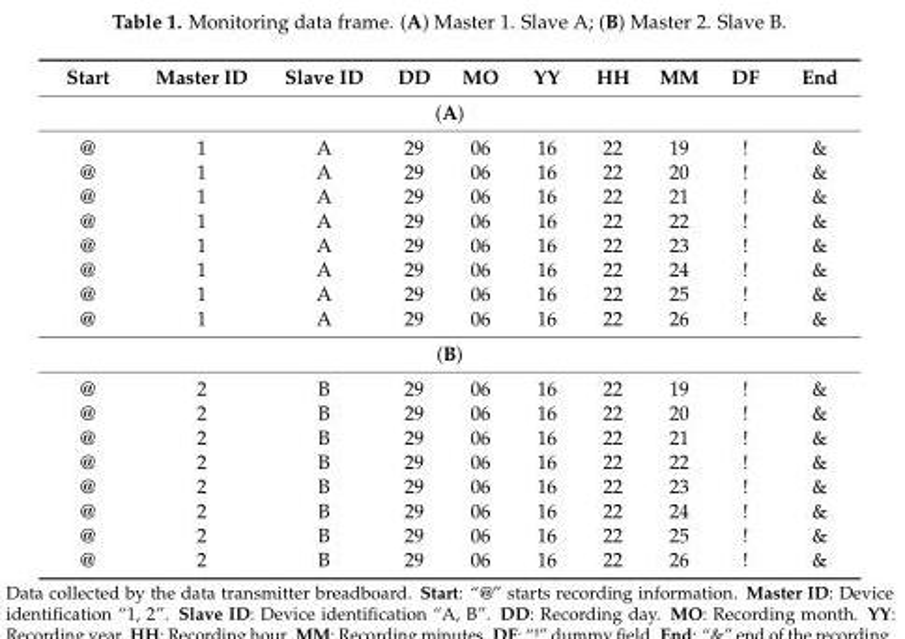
<table><thead><tr><td>Start</td><td>Master ID</td><td>Slave ID</td><td>DD</td><td>MO</td><td>YY</td><td>HH</td><td>MM</td><td>DF</td><td>End</td></tr></thead><tbody><tr><td colspan="10">(A)</td></tr><tr><td>@</td><td>1</td><td>A</td><td>29</td><td>06</td><td>16</td><td>22</td><td>19</td><td>!</td><td>&amp;</td></tr><tr><td>@</td><td>1</td><td>A</td><td>29</td><td>06</td><td>16</td><td>22</td><td>20</td><td>!</td><td>&amp;</td></tr><tr><td>@</td><td>1</td><td>A</td><td>29</td><td>06</td><td>16</td><td>22</td><td>21</td><td>!</td><td>&amp;</td></tr><tr><td>@</td><td>1</td><td>A</td><td>29</td><td>06</td><td>16</td><td>22</td><td>22</td><td>!</td><td>&amp;</td></tr><tr><td>@</td><td>1</td><td>A</td><td>29</td><td>06</td><td>16</td><td>22</td><td>23</td><td>!</td><td>&amp;</td></tr><tr><td>@</td><td>1</td><td>A</td><td>29</td><td>06</td><td>16</td><td>22</td><td>24</td><td>!</td><td>&amp;</td></tr><tr><td>@</td><td>1</td><td>A</td><td>29</td><td>06</td><td>16</td><td>22</td><td>25</td><td>!</td><td>&amp;</td></tr><tr><td>@</td><td>1</td><td>A</td><td>29</td><td>06</td><td>16</td><td>22</td><td>26</td><td>!</td><td>&amp;</td></tr><tr><td colspan="10">(B)</td></tr><tr><td>@</td><td>2</td><td>B</td><td>29</td><td>06</td><td>16</td><td>22</td><td>19</td><td>!</td><td>&amp;</td></tr><tr><td>@</td><td>2</td><td>B</td><td>29</td><td>06</td><td>16</td><td>22</td><td>20</td><td>!</td><td>&amp;</td></tr><tr><td>@</td><td>2</td><td>B</td><td>29</td><td>06</td><td>16</td><td>22</td><td>21</td><td>!</td><td>&amp;</td></tr><tr><td>@</td><td>2</td><td>B</td><td>29</td><td>06</td><td>16</td><td>22</td><td>22</td><td>!</td><td>&amp;</td></tr><tr><td>@</td><td>2</td><td>B</td><td>29</td><td>06</td><td>16</td><td>22</td><td>23</td><td>!</td><td>&amp;</td></tr><tr><td>@</td><td>2</td><td>B</td><td>29</td><td>06</td><td>16</td><td>22</td><td>24</td><td>!</td><td>&amp;</td></tr><tr><td>@</td><td>2</td><td>B</td><td>29</td><td>06</td><td>16</td><td>22</td><td>25</td><td>!</td><td>&amp;</td></tr><tr><td>@</td><td>2</td><td>B</td><td>29</td><td>06</td><td>16</td><td>22</td><td>26</td><td>!</td><td>&amp;</td></tr></tbody></table>